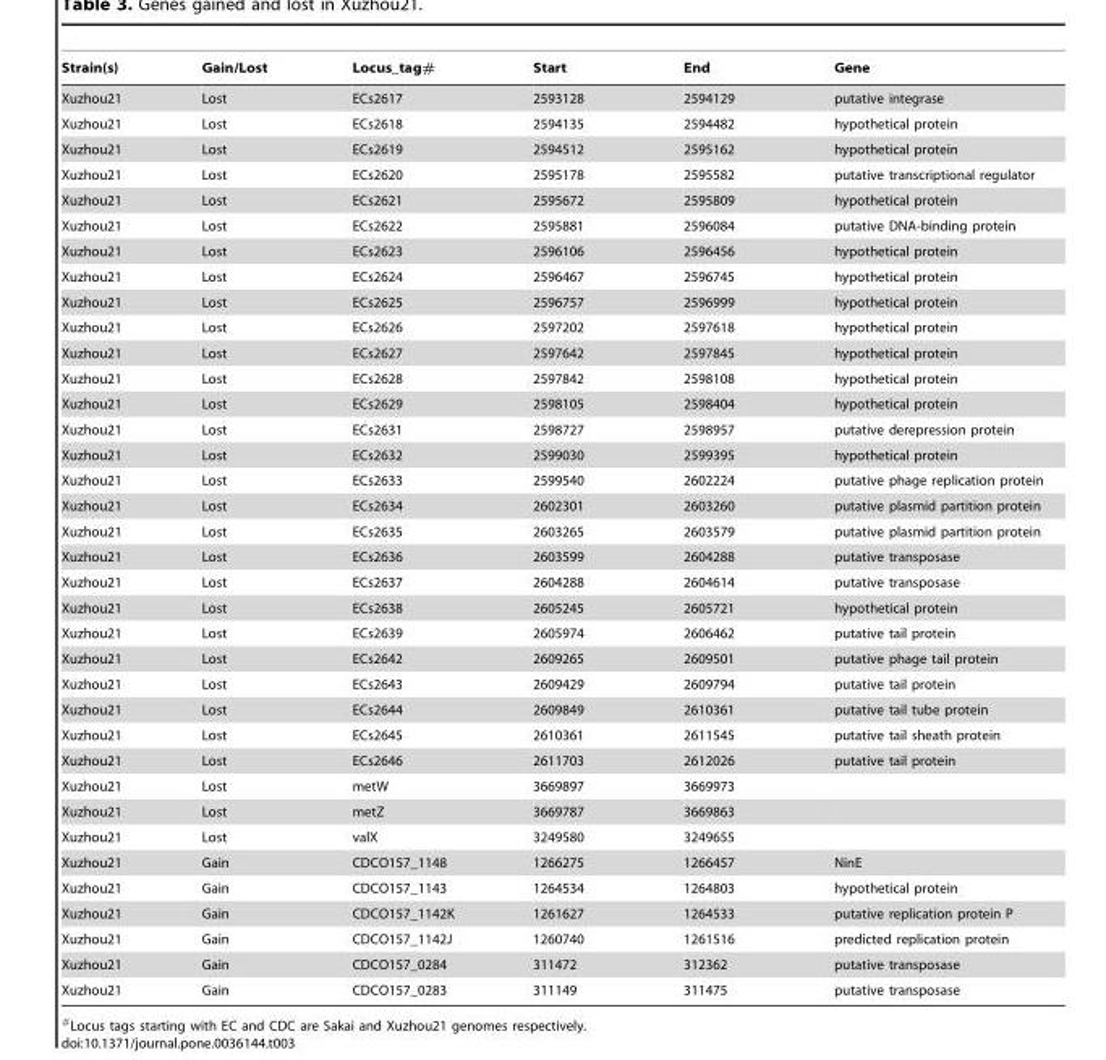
<table><thead><tr><td>Strain(s)</td><td>Gain/Lost</td><td>Locus_tag#</td><td>Start</td><td>End</td><td>Gene</td></tr></thead><tbody><tr><td>Xuzhou21</td><td>Lost</td><td>ECs2617</td><td>2593128</td><td>2594129</td><td>putative integrase</td></tr><tr><td>Xuzhou21</td><td>Lost</td><td>ECs2618</td><td>2594135</td><td>2594482</td><td>hypothetical protein</td></tr><tr><td>Xuzhou21</td><td>Lost</td><td>ECs2619</td><td>2594512</td><td>2595162</td><td>hypothetical protein</td></tr><tr><td>Xuzhou21</td><td>Lost</td><td>ECs2620</td><td>2595178</td><td>2595582</td><td>putative transcriptional regulator</td></tr><tr><td>Xuzhou21</td><td>Lost</td><td>ECs2621</td><td>2595672</td><td>2595809</td><td>hypothetical protein</td></tr><tr><td>Xuzhou21</td><td>Lost</td><td>ECs2622</td><td>2595881</td><td>2596084</td><td>putative DNA-binding protein</td></tr><tr><td>Xuzhou21</td><td>Lost</td><td>ECs2623</td><td>2596106</td><td>2596456</td><td>hypothetical protein</td></tr><tr><td>Xuzhou21</td><td>Lost</td><td>ECs2624</td><td>2596467</td><td>2596745</td><td>hypothetical protein</td></tr><tr><td>Xuzhou21</td><td>Lost</td><td>ECs2625</td><td>2596757</td><td>2596999</td><td>hypothetical protein</td></tr><tr><td>Xuzhou21</td><td>Lost</td><td>ECs2626</td><td>2597202</td><td>2597618</td><td>hypothetical protein</td></tr><tr><td>Xuzhou21</td><td>Lost</td><td>ECs2627</td><td>2597642</td><td>2597845</td><td>hypothetical protein</td></tr><tr><td>Xuzhou21</td><td>Lost</td><td>ECs2628</td><td>2597842</td><td>2598108</td><td>hypothetical protein</td></tr><tr><td>Xuzhou21</td><td>Lost</td><td>ECs2629</td><td>2598105</td><td>2598404</td><td>hypothetical protein</td></tr><tr><td>Xuzhou21</td><td>Lost</td><td>ECs2631</td><td>2598727</td><td>2598957</td><td>putative derepression protein</td></tr><tr><td>Xuzhou21</td><td>Lost</td><td>ECs2632</td><td>2599030</td><td>2599395</td><td>hypothetical protein</td></tr><tr><td>Xuzhou21</td><td>Lost</td><td>ECs2633</td><td>2599540</td><td>2602224</td><td>putative phage replication protein</td></tr><tr><td>Xuzhou21</td><td>Lost</td><td>ECs2634</td><td>2602301</td><td>2603260</td><td>putative plasmid partition protein</td></tr><tr><td>Xuzhou21</td><td>Lost</td><td>ECs2635</td><td>2603265</td><td>2603579</td><td>putative plasmid partition protein</td></tr><tr><td>Xuzhou21</td><td>Lost</td><td>ECs2636</td><td>2603599</td><td>2604288</td><td>putative transposase</td></tr><tr><td>Xuzhou21</td><td>Lost</td><td>ECs2637</td><td>2604288</td><td>2604614</td><td>putative transposase</td></tr><tr><td>Xuzhou21</td><td>Lost</td><td>ECs2638</td><td>2605245</td><td>2605721</td><td>hypothetical protein</td></tr><tr><td>Xuzhou21</td><td>Lost</td><td>ECs2639</td><td>2605974</td><td>2606462</td><td>putative tail protein</td></tr><tr><td>Xuzhou21</td><td>Lost</td><td>ECs2642</td><td>2609265</td><td>2609501</td><td>putative phage tail protein</td></tr><tr><td>Xuzhou21</td><td>Lost</td><td>ECs2643</td><td>2609429</td><td>2609794</td><td>putative tail protein</td></tr><tr><td>Xuzhou21</td><td>Lost</td><td>ECs2644</td><td>2609849</td><td>2610361</td><td>putative tail tube protein</td></tr><tr><td>Xuzhou21</td><td>Lost</td><td>ECs2645</td><td>2610361</td><td>2611545</td><td>putative tail sheath protein</td></tr><tr><td>Xuzhou21</td><td>Lost</td><td>ECs2646</td><td>2611703</td><td>2612026</td><td>putative tail protein</td></tr><tr><td>Xuzhou21</td><td>Lost</td><td>metW</td><td>3669897</td><td>3669973</td><td></td></tr><tr><td>Xuzhou21</td><td>Lost</td><td>metZ</td><td>3669787</td><td>3669863</td><td></td></tr><tr><td>Xuzhou21</td><td>Lost</td><td>valX</td><td>3249580</td><td>3249655</td><td></td></tr><tr><td>Xuzhou21</td><td>Gain</td><td>CDCO157_1148</td><td>1266275</td><td>1266457</td><td>NinE</td></tr><tr><td>Xuzhou21</td><td>Gain</td><td>CDCO157_1143</td><td>1264534</td><td>1264803</td><td>hypothetical protein</td></tr><tr><td>Xuzhou21</td><td>Gain</td><td>CDCO157_1142K</td><td>1261627</td><td>1264533</td><td>putative replication protein P</td></tr><tr><td>Xuzhou21</td><td>Gain</td><td>CDCO157_1142J</td><td>1260740</td><td>1261516</td><td>predicted replication protein</td></tr><tr><td>Xuzhou21</td><td>Gain</td><td>CDCO157_0284</td><td>311472</td><td>312362</td><td>putative transposase</td></tr><tr><td>Xuzhou21</td><td>Gain</td><td>CDCO157_0283</td><td>311149</td><td>311475</td><td>putative transposase</td></tr></tbody></table>